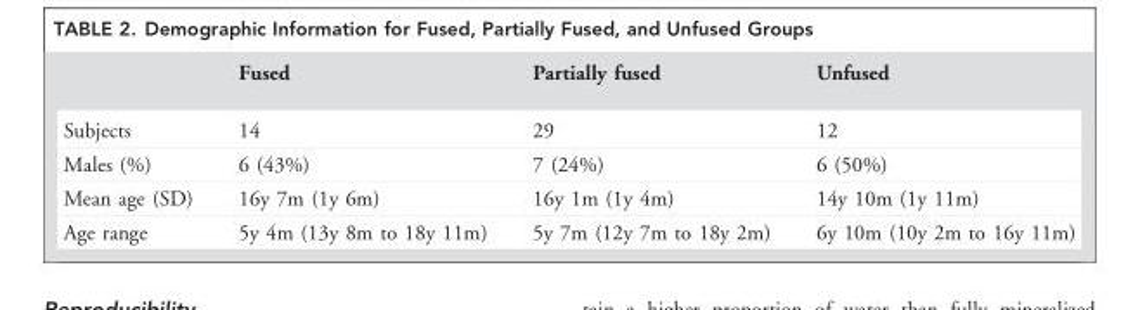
<table><thead><tr><td></td><td>Fused</td><td>Partially fused</td><td>Unfused</td></tr></thead><tbody><tr><td>Subjects</td><td>14</td><td>29</td><td>12</td></tr><tr><td>Males (%)</td><td>6 (43%)</td><td>7 (24%)</td><td>6 (50%)</td></tr><tr><td>Mean age (SD)</td><td>16y 7m (1y 6m)</td><td>16y 1m (1y 4m)</td><td>14y 10m (1y 11m)</td></tr><tr><td>Age range</td><td>5y 4m (13y 8m to 18y 11m)</td><td>5y 7m (12y 7m to 18y 2m)</td><td>6y 10m (10y 2m to 16y 11m)</td></tr></tbody></table>